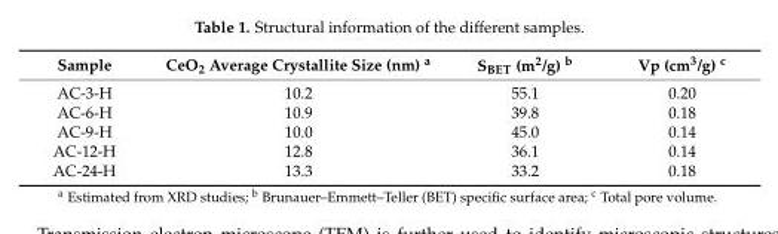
<table><thead><tr><td>Sample</td><td>CeO<sub>2</sub> Average Crystallite Size (nm) <sup>a</sup></td><td>S<sub>BET</sub> (m<sup>2</sup>/g) <sup>b</sup></td><td>Vp (cm<sup>3</sup>/g) <sup>c</sup></td></tr></thead><tbody><tr><td>AC-3-H</td><td>10.2</td><td>55.1</td><td>0.20</td></tr><tr><td>AC-6-H</td><td>10.9</td><td>39.8</td><td>0.18</td></tr><tr><td>AC-9-H</td><td>10.0</td><td>45.0</td><td>0.14</td></tr><tr><td>AC-12-H</td><td>12.8</td><td>36.1</td><td>0.14</td></tr><tr><td>AC-24-H</td><td>13.3</td><td>33.2</td><td>0.18</td></tr></tbody></table>